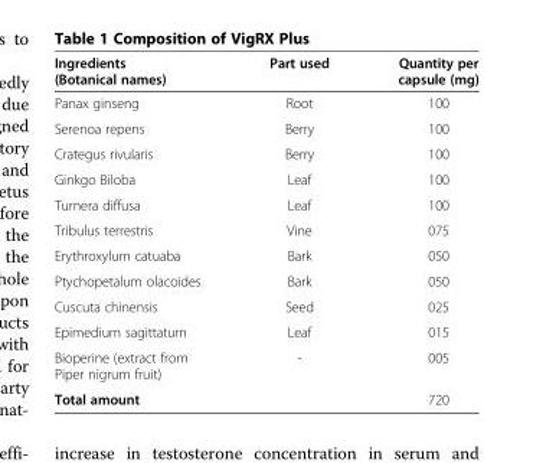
<table><thead><tr><td>Ingredients (Botanical names)</td><td>Part used</td><td>Quantity per capsule (mg)</td></tr></thead><tbody><tr><td>Panax ginseng</td><td>Root</td><td>100</td></tr><tr><td>Serenoa repens</td><td>Berry</td><td>100</td></tr><tr><td>Crategus rivularis</td><td>Berry</td><td>100</td></tr><tr><td>Ginkgo Biloba</td><td>Leaf</td><td>100</td></tr><tr><td>Turnera diffusa</td><td>Leaf</td><td>100</td></tr><tr><td>Tribulus terrestris</td><td>Vine</td><td>075</td></tr><tr><td>Erythroxylum catuaba</td><td>Bark</td><td>050</td></tr><tr><td>Ptychopetalum olacoides</td><td>Bark</td><td>050</td></tr><tr><td>Cuscuta chinensis</td><td>Seed</td><td>025</td></tr><tr><td>Epimedium sagittatum</td><td>Leaf</td><td>015</td></tr><tr><td>Bioperine (extract from Piper nigrum fruit)</td><td>-</td><td>005</td></tr><tr><td>Total amount</td><td></td><td>720</td></tr></tbody></table>